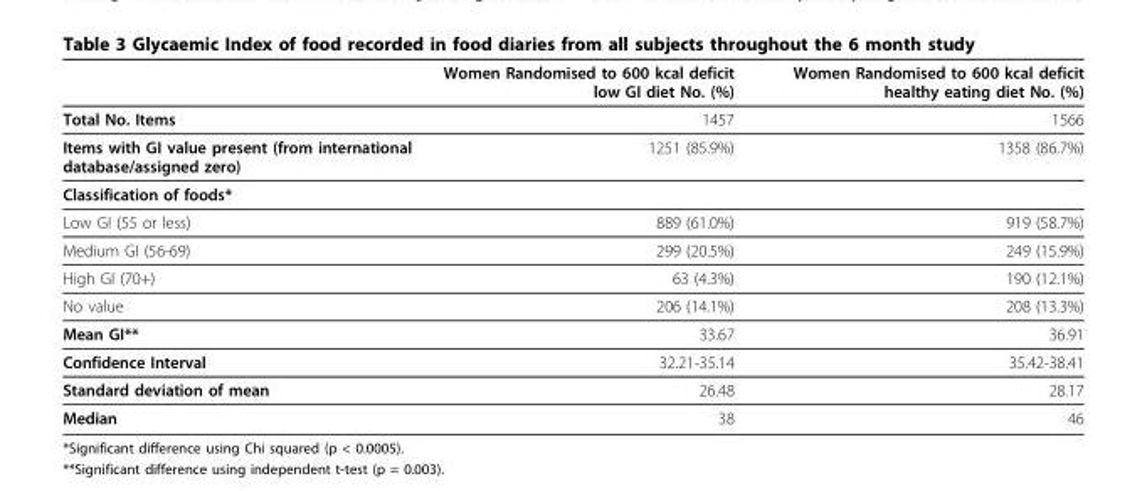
<table><thead><tr><td></td><td>Women Randomised to 600 kcal deficit low GI diet No. (%)</td><td>Women Randomised to 600 kcal deficit healthy eating diet No. (%)</td></tr></thead><tbody><tr><td>Total No. Items</td><td>1457</td><td>1566</td></tr><tr><td>Items with GI value present (from international database/assigned zero)</td><td>1251 (85.9%)</td><td>1358 (86.7%)</td></tr><tr><td colspan="3">Classification of foods*</td></tr><tr><td>Low GI (55 or less)</td><td>889 (61.0%)</td><td>919 (58.7%)</td></tr><tr><td>Medium GI (56-69)</td><td>299 (20.5%)</td><td>249 (15.9%)</td></tr><tr><td>High GI (70+)</td><td>63 (4.3%)</td><td>190 (12.1%)</td></tr><tr><td>No value</td><td>206 (14.1%)</td><td>208 (13.3%)</td></tr><tr><td>Mean GI**</td><td>33.67</td><td>36.91</td></tr><tr><td>Confidence Interval</td><td>32.21-35.14</td><td>35.42-38.41</td></tr><tr><td>Standard deviation of mean</td><td>26.48</td><td>28.17</td></tr><tr><td>Median</td><td>38</td><td>46</td></tr></tbody></table>